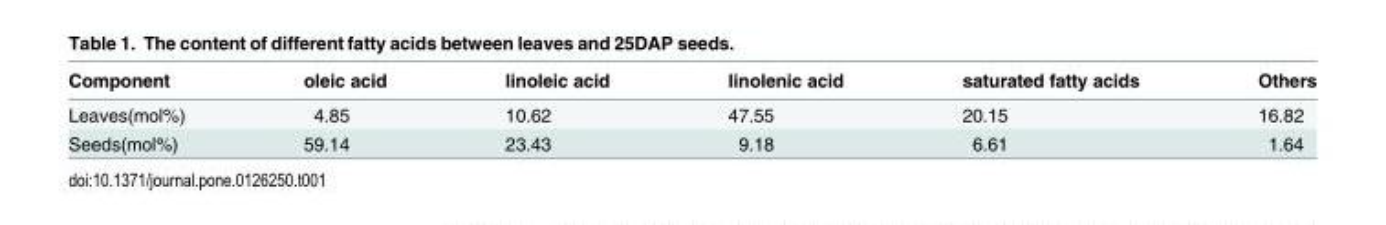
<table><thead><tr><td>Component</td><td>oleic acid</td><td>linoleic acid</td><td>linolenic acid</td><td>saturated fatty acids</td><td>Others</td></tr></thead><tbody><tr><td>Leaves(mol%)</td><td>4.85</td><td>10.62</td><td>47.55</td><td>20.15</td><td>16.82</td></tr><tr><td>Seeds(mol%)</td><td>59.14</td><td>23.43</td><td>9.18</td><td>6.61</td><td>1.64</td></tr></tbody></table>